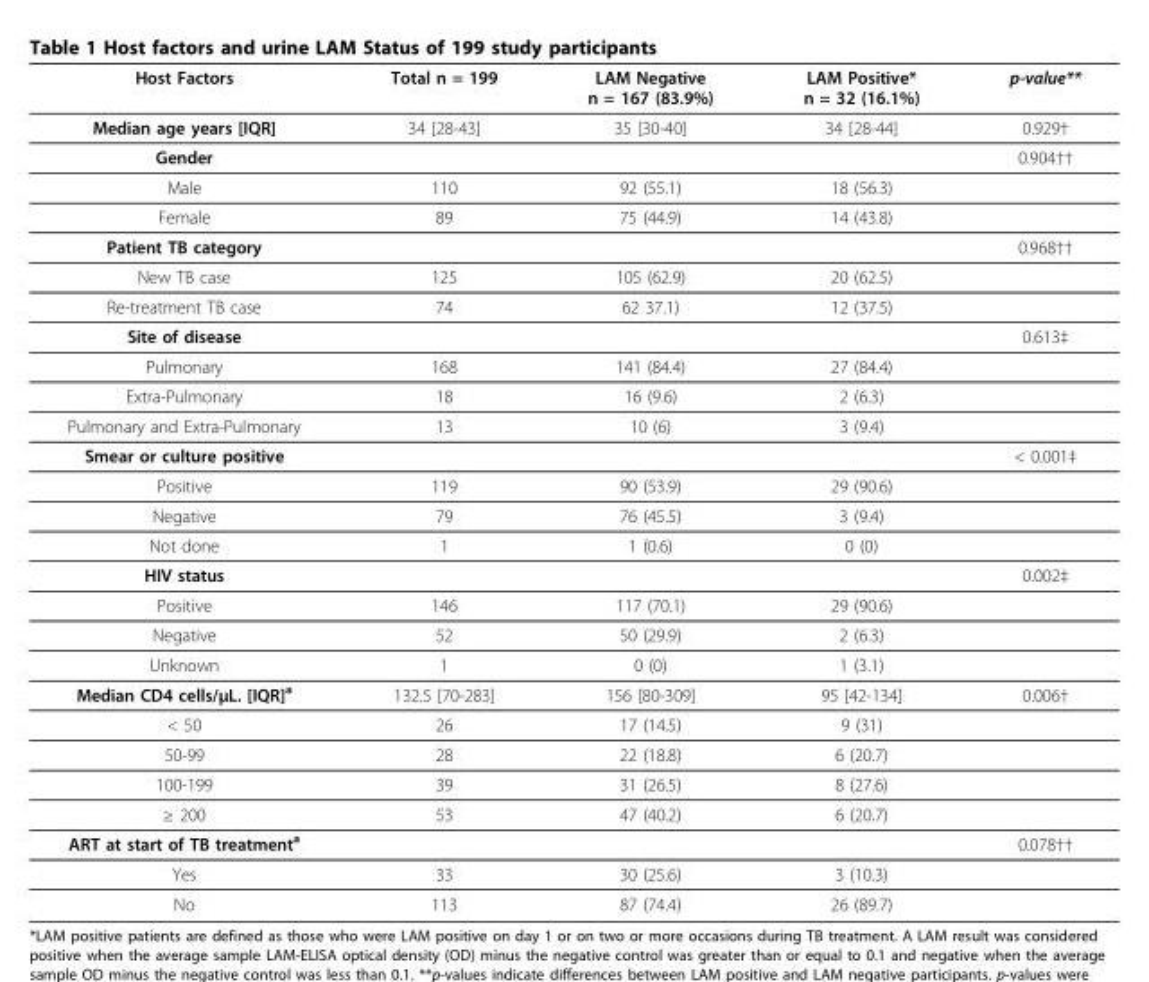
<table><thead><tr><td>Host Factors</td><td>Total n = 199</td><td>LAM Negative n = 167 (83.9%)</td><td>LAM Positive* n = 32 (16.1%)</td><td>p-value**</td></tr></thead><tbody><tr><td>Median age years [IQR]</td><td>34 [28-43]</td><td>35 [30-40]</td><td>34 [28-44]</td><td>0.929†</td></tr><tr><td>Gender</td><td></td><td></td><td></td><td>0.904††</td></tr><tr><td>Male</td><td>110</td><td>92 (55.1)</td><td>18 (56.3)</td><td></td></tr><tr><td>Female</td><td>89</td><td>75 (44.9)</td><td>14 (43.8)</td><td></td></tr><tr><td>Patient TB category</td><td></td><td></td><td></td><td>0.968††</td></tr><tr><td>New TB case</td><td>125</td><td>105 (62.9)</td><td>20 (62.5)</td><td></td></tr><tr><td>Re-treatment TB case</td><td>74</td><td>62 37.1)</td><td>12 (37.5)</td><td></td></tr><tr><td>Site of disease</td><td></td><td></td><td></td><td>0.613‡</td></tr><tr><td>Pulmonary</td><td>168</td><td>141 (84.4)</td><td>27 (84.4)</td><td></td></tr><tr><td>Extra-Pulmonary</td><td>18</td><td>16 (9.6)</td><td>2 (6.3)</td><td></td></tr><tr><td>Pulmonary and Extra-Pulmonary</td><td>13</td><td>10 (6)</td><td>3 (9.4)</td><td></td></tr><tr><td>Smear or culture positive</td><td></td><td></td><td></td><td>&lt; 0.001‡</td></tr><tr><td>Positive</td><td>119</td><td>90 (53.9)</td><td>29 (90.6)</td><td></td></tr><tr><td>Negative</td><td>79</td><td>76 (45.5)</td><td>3 (9.4)</td><td></td></tr><tr><td>Not done</td><td>1</td><td>1 (0.6)</td><td>0 (0)</td><td></td></tr><tr><td>HIV status</td><td></td><td></td><td></td><td>0.002‡</td></tr><tr><td>Positive</td><td>146</td><td>117 (70.1)</td><td>29 (90.6)</td><td></td></tr><tr><td>Negative</td><td>52</td><td>50 (29.9)</td><td>2 (6.3)</td><td></td></tr><tr><td>Unknown</td><td>1</td><td>0 (0)</td><td>1 (3.1)</td><td></td></tr><tr><td>Median CD4 cells/μL. [IQR]<sup>a</sup></td><td>132.5 [70-283]</td><td>156 [80-309]</td><td>95 [42-134]</td><td>0.006†</td></tr><tr><td>&lt; 50</td><td>26</td><td>17 (14.5)</td><td>9 (31)</td><td></td></tr><tr><td>50-99</td><td>28</td><td>22 (18.8)</td><td>6 (20.7)</td><td></td></tr><tr><td>100-199</td><td>39</td><td>31 (26.5)</td><td>8 (27.6)</td><td></td></tr><tr><td>≥ 200</td><td>53</td><td>47 (40.2)</td><td>6 (20.7)</td><td></td></tr><tr><td>ART at start of TB treatment<sup>a</sup></td><td></td><td></td><td></td><td>0.078††</td></tr><tr><td>Yes</td><td>33</td><td>30 (25.6)</td><td>3 (10.3)</td><td></td></tr><tr><td>No</td><td>113</td><td>87 (74.4)</td><td>26 (89.7)</td><td></td></tr></tbody></table>